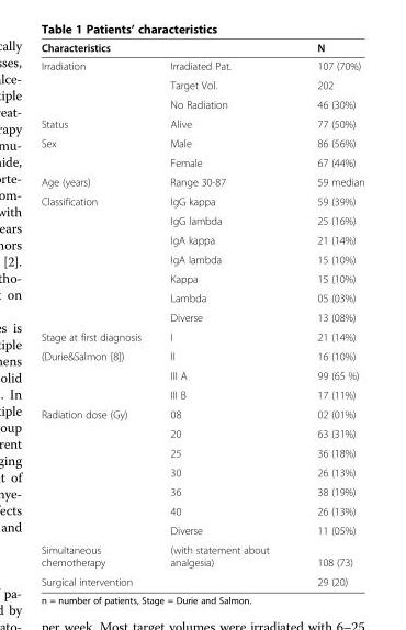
<table><thead><tr><td>Characteristics</td><td></td><td>N</td></tr></thead><tbody><tr><td rowspan="3">Irradiation</td><td>Irradiated Pat.</td><td>107 (70%)</td></tr><tr><td>Target Vol.</td><td>202</td></tr><tr><td>No Radiation</td><td>46 (30%)</td></tr><tr><td>Status</td><td>Alive</td><td>77 (50%)</td></tr><tr><td rowspan="2">Sex</td><td>Male</td><td>86 (56%)</td></tr><tr><td>Female</td><td>67 (44%)</td></tr><tr><td>Age (years)</td><td>Range 30-87</td><td>59 median</td></tr><tr><td rowspan="7">Classification</td><td>IgG kappa</td><td>59 (39%)</td></tr><tr><td>IgG lambda</td><td>25 (16%)</td></tr><tr><td>IgA kappa</td><td>21 (14%)</td></tr><tr><td>IgA lambda</td><td>15 (10%)</td></tr><tr><td>Kappa</td><td>15 (10%)</td></tr><tr><td>Lambda</td><td>05 (03%)</td></tr><tr><td>Diverse</td><td>13 (08%)</td></tr><tr><td>Stage at first diagnosis</td><td>I</td><td>21 (14%)</td></tr><tr><td rowspan="3">(Durie&amp;Salmon [8])</td><td>II</td><td>16 (10%)</td></tr><tr><td>III A</td><td>99 (65 %)</td></tr><tr><td>III B</td><td>17 (11%)</td></tr><tr><td rowspan="7">Radiation dose (Gy)</td><td>08</td><td>02 (01%)</td></tr><tr><td>20</td><td>63 (31%)</td></tr><tr><td>25</td><td>36 (18%)</td></tr><tr><td>30</td><td>26 (13%)</td></tr><tr><td>36</td><td>38 (19%)</td></tr><tr><td>40</td><td>26 (13%)</td></tr><tr><td>Diverse</td><td>11 (05%)</td></tr><tr><td>Simultaneous chemotherapy</td><td>(with statement about analgesia)</td><td>108 (73)</td></tr><tr><td>Surgical intervention</td><td></td><td>29 (20)</td></tr></tbody></table>